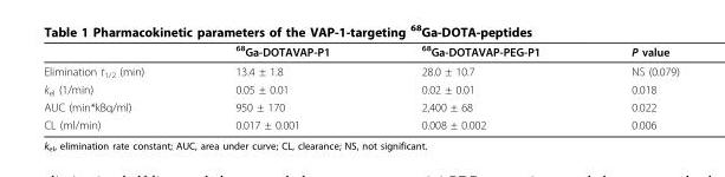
<table><thead><tr><td></td><td><sup>68</sup>Ga-DOTAVAP-P1</td><td><sup>68</sup>Ga-DOTAVAP-PEG-P1</td><td>P value</td></tr></thead><tbody><tr><td>Elimination t<sub>1/2</sub> (min)</td><td>13.4 ± 1.8</td><td>28.0 ± 10.7</td><td>NS (0.079)</td></tr><tr><td>k<sub>el</sub> (1/min)</td><td>0.05 ± 0.01</td><td>0.02 ± 0.01</td><td>0.018</td></tr><tr><td>AUC (min*kBq/ml)</td><td>950 ± 170</td><td>2,400 ± 68</td><td>0.022</td></tr><tr><td>CL (ml/min)</td><td>0.017 ± 0.001</td><td>0.008 ± 0.002</td><td>0.006</td></tr></tbody></table>